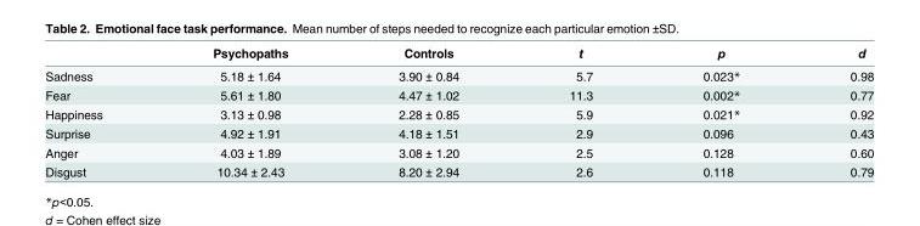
<table><thead><tr><td></td><td>Psychopaths</td><td>Controls</td><td>t</td><td>p</td><td>d</td></tr></thead><tbody><tr><td>Sadness</td><td>5.18 ± 1.64</td><td>3.90 ± 0.84</td><td>5.7</td><td>0.023*</td><td>0.98</td></tr><tr><td>Fear</td><td>5.61 ± 1.80</td><td>4.47 ± 1.02</td><td>11.3</td><td>0.002*</td><td>0.77</td></tr><tr><td>Happiness</td><td>3.13 ± 0.98</td><td>2.28 ± 0.85</td><td>5.9</td><td>0.021*</td><td>0.92</td></tr><tr><td>Surprise</td><td>4.92 ± 1.91</td><td>4.18 ± 1.51</td><td>2.9</td><td>0.096</td><td>0.43</td></tr><tr><td>Anger</td><td>4.03 ± 1.89</td><td>3.08 ± 1.20</td><td>2.5</td><td>0.128</td><td>0.60</td></tr><tr><td>Disgust</td><td>10.34 ± 2.43</td><td>8.20 ± 2.94</td><td>2.6</td><td>0.118</td><td>0.79</td></tr></tbody></table>